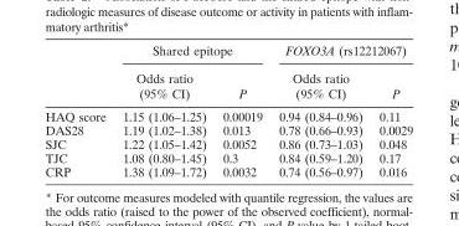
<table><thead><tr><td rowspan="2"></td><td colspan="2">Shared epitope</td><td colspan="2">FOXO3A (rs12212067)</td></tr><tr><td>Odds ratio (95% CI)</td><td>P</td><td>Odds ratio (95% CI)</td><td>P</td></tr></thead><tbody><tr><td>HAQ score</td><td>1.15 (1.06–1.25)</td><td>0.00019</td><td>0.94 (0.84–0.96)</td><td>0.11</td></tr><tr><td>DAS28</td><td>1.19 (1.02–1.38)</td><td>0.013</td><td>0.78 (0.66–0.93)</td><td>0.0029</td></tr><tr><td>SJC</td><td>1.22 (1.05–1.42)</td><td>0.0052</td><td>0.86 (0.73–1.03)</td><td>0.048</td></tr><tr><td>TJC</td><td>1.08 (0.80–1.45)</td><td>0.3</td><td>0.84 (0.59–1.20)</td><td>0.17</td></tr><tr><td>CRP</td><td>1.38 (1.09–1.72)</td><td>0.0032</td><td>0.74 (0.56–0.97)</td><td>0.016</td></tr></tbody></table>